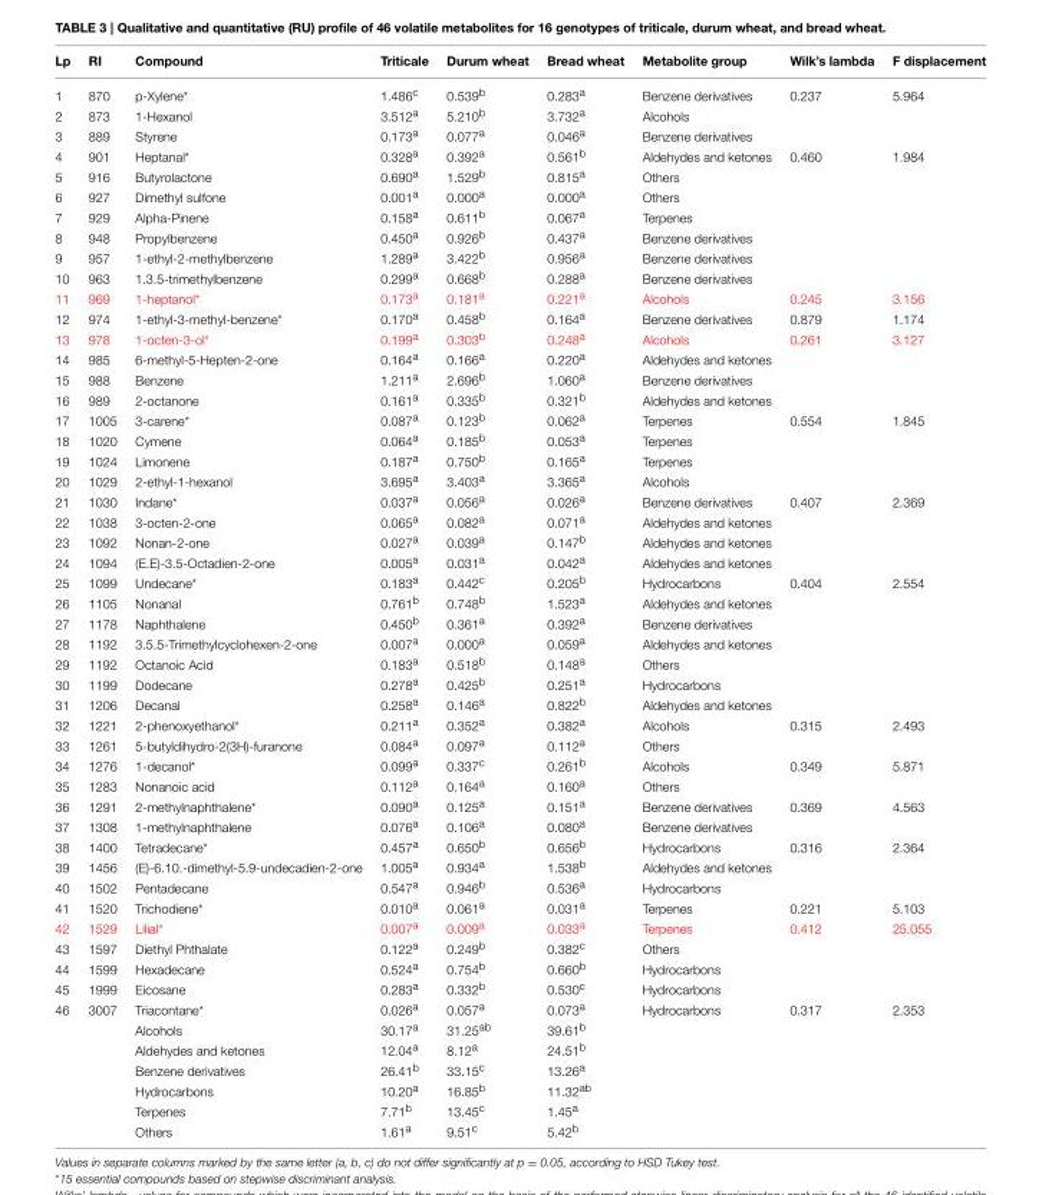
<table><thead><tr><td>Lp</td><td>RI</td><td>Compound</td><td>Triticale</td><td>Durum wheat</td><td>Bread wheat</td><td>Metabolite group</td><td>Wilk’s lambda</td><td>F displacement</td></tr></thead><tbody><tr><td>1</td><td>870</td><td>p-Xylene*</td><td>1.486<sup>c</sup></td><td>0.539<sup>b</sup></td><td>0.283<sup>a</sup></td><td>Benzene derivatives</td><td>0.237</td><td>5.964</td></tr><tr><td>2</td><td>873</td><td>1-Hexanol</td><td>3.512<sup>a</sup></td><td>5.210<sup>b</sup></td><td>3.732<sup>a</sup></td><td>Alcohols</td><td></td><td></td></tr><tr><td>3</td><td>889</td><td>Styrene</td><td>0.173<sup>a</sup></td><td>0.077<sup>a</sup></td><td>0.046<sup>a</sup></td><td>Benzene derivatives</td><td></td><td></td></tr><tr><td>4</td><td>901</td><td>Heptanal*</td><td>0.328<sup>a</sup></td><td>0.392<sup>a</sup></td><td>0.561<sup>b</sup></td><td>Aldehydes and ketones</td><td>0.460</td><td>1.984</td></tr><tr><td>5</td><td>916</td><td>Butyrolactone</td><td>0.690<sup>a</sup></td><td>1.529<sup>b</sup></td><td>0.815<sup>a</sup></td><td>Others</td><td></td><td></td></tr><tr><td>6</td><td>927</td><td>Dimethyl sulfone</td><td>0.001<sup>a</sup></td><td>0.000<sup>a</sup></td><td>0.000<sup>a</sup></td><td>Others</td><td></td><td></td></tr><tr><td>7</td><td>929</td><td>Alpha-Pinene</td><td>0.158<sup>a</sup></td><td>0.611<sup>b</sup></td><td>0.067<sup>a</sup></td><td>Terpenes</td><td></td><td></td></tr><tr><td>8</td><td>948</td><td>Propylbenzene</td><td>0.450<sup>a</sup></td><td>0.926<sup>b</sup></td><td>0.437<sup>a</sup></td><td>Benzene derivatives</td><td></td><td></td></tr><tr><td>9</td><td>957</td><td>1-ethyl-2-methylbenzene</td><td>1.289<sup>a</sup></td><td>3.422<sup>b</sup></td><td>0.956<sup>a</sup></td><td>Benzene derivatives</td><td></td><td></td></tr><tr><td>10</td><td>963</td><td>1.3.5-trimethylbenzene</td><td>0.299<sup>a</sup></td><td>0.668<sup>b</sup></td><td>0.288<sup>a</sup></td><td>Benzene derivatives</td><td></td><td></td></tr><tr><td>11</td><td>969</td><td>1-heptanol*</td><td>0.173<sup>a</sup></td><td>0.181<sup>a</sup></td><td>0.221<sup>a</sup></td><td>Alcohols</td><td>0.245</td><td>3.156</td></tr><tr><td>12</td><td>974</td><td>1-ethyl-3-methyl-benzene*</td><td>0.170<sup>a</sup></td><td>0.458<sup>b</sup></td><td>0.164<sup>a</sup></td><td>Benzene derivatives</td><td>0.879</td><td>1.174</td></tr><tr><td>13</td><td>978</td><td>1-octen-3-ol*</td><td>0.199<sup>a</sup></td><td>0.303<sup>b</sup></td><td>0.248<sup>a</sup></td><td>Alcohols</td><td>0.261</td><td>3.127</td></tr><tr><td>14</td><td>985</td><td>6-methyl-5-Hepten-2-one</td><td>0.164<sup>a</sup></td><td>0.166<sup>a</sup></td><td>0.220<sup>a</sup></td><td>Aldehydes and ketones</td><td></td><td></td></tr><tr><td>15</td><td>988</td><td>Benzene</td><td>1.211<sup>a</sup></td><td>2.696<sup>b</sup></td><td>1.060<sup>a</sup></td><td>Benzene derivatives</td><td></td><td></td></tr><tr><td>16</td><td>989</td><td>2-octanone</td><td>0.161<sup>a</sup></td><td>0.335<sup>b</sup></td><td>0.321<sup>b</sup></td><td>Aldehydes and ketones</td><td></td><td></td></tr><tr><td>17</td><td>1005</td><td>3-carene*</td><td>0.087<sup>a</sup></td><td>0.123<sup>b</sup></td><td>0.062<sup>a</sup></td><td>Terpenes</td><td>0.554</td><td>1.845</td></tr><tr><td>18</td><td>1020</td><td>Cymene</td><td>0.064<sup>a</sup></td><td>0.185<sup>b</sup></td><td>0.053<sup>a</sup></td><td>Terpenes</td><td></td><td></td></tr><tr><td>19</td><td>1024</td><td>Limonene</td><td>0.187<sup>a</sup></td><td>0.750<sup>b</sup></td><td>0.165<sup>a</sup></td><td>Terpenes</td><td></td><td></td></tr><tr><td>20</td><td>1029</td><td>2-ethyl-1-hexanol</td><td>3.695<sup>a</sup></td><td>3.403<sup>a</sup></td><td>3.365<sup>a</sup></td><td>Alcohols</td><td></td><td></td></tr><tr><td>21</td><td>1030</td><td>Indane*</td><td>0.037<sup>a</sup></td><td>0.056<sup>a</sup></td><td>0.026<sup>a</sup></td><td>Benzene derivatives</td><td>0.407</td><td>2.369</td></tr><tr><td>22</td><td>1038</td><td>3-octen-2-one</td><td>0.065<sup>a</sup></td><td>0.082<sup>a</sup></td><td>0.071<sup>a</sup></td><td>Aldehydes and ketones</td><td></td><td></td></tr><tr><td>23</td><td>1092</td><td>Nonan-2-one</td><td>0.027<sup>a</sup></td><td>0.039<sup>a</sup></td><td>0.147<sup>b</sup></td><td>Aldehydes and ketones</td><td></td><td></td></tr><tr><td>24</td><td>1094</td><td>(E.E)-3.5-Octadien-2-one</td><td>0.005<sup>a</sup></td><td>0.031<sup>a</sup></td><td>0.042<sup>a</sup></td><td>Aldehydes and ketones</td><td></td><td></td></tr><tr><td>25</td><td>1099</td><td>Undecane*</td><td>0.183<sup>a</sup></td><td>0.442<sup>c</sup></td><td>0.205<sup>b</sup></td><td>Hydrocarbons</td><td>0.404</td><td>2.554</td></tr><tr><td>26</td><td>1105</td><td>Nonanal</td><td>0.761<sup>b</sup></td><td>0.748<sup>b</sup></td><td>1.523<sup>a</sup></td><td>Aldehydes and ketones</td><td></td><td></td></tr><tr><td>27</td><td>1178</td><td>Naphthalene</td><td>0.450<sup>b</sup></td><td>0.361<sup>a</sup></td><td>0.392<sup>a</sup></td><td>Benzene derivatives</td><td></td><td></td></tr><tr><td>28</td><td>1192</td><td>3.5.5-Trimethylcyclohexen-2-one</td><td>0.007<sup>a</sup></td><td>0.000<sup>a</sup></td><td>0.059<sup>a</sup></td><td>Aldehydes and ketones</td><td></td><td></td></tr><tr><td>29</td><td>1192</td><td>Octanoic Acid</td><td>0.183<sup>a</sup></td><td>0.518<sup>b</sup></td><td>0.148<sup>a</sup></td><td>Others</td><td></td><td></td></tr><tr><td>30</td><td>1199</td><td>Dodecane</td><td>0.278<sup>a</sup></td><td>0.425<sup>b</sup></td><td>0.251<sup>a</sup></td><td>Hydrocarbons</td><td></td><td></td></tr><tr><td>31</td><td>1206</td><td>Decanal</td><td>0.258<sup>a</sup></td><td>0.146<sup>a</sup></td><td>0.822<sup>b</sup></td><td>Aldehydes and ketones</td><td></td><td></td></tr><tr><td>32</td><td>1221</td><td>2-phenoxyethanol*</td><td>0.211<sup>a</sup></td><td>0.352<sup>a</sup></td><td>0.382<sup>a</sup></td><td>Alcohols</td><td>0.315</td><td>2.493</td></tr><tr><td>33</td><td>1261</td><td>5-butyldihydro-2(3H)-furanone</td><td>0.084<sup>a</sup></td><td>0.097<sup>a</sup></td><td>0.112<sup>a</sup></td><td>Others</td><td></td><td></td></tr><tr><td>34</td><td>1276</td><td>1-decanol*</td><td>0.099<sup>a</sup></td><td>0.337<sup>c</sup></td><td>0.261<sup>b</sup></td><td>Alcohols</td><td>0.349</td><td>5.871</td></tr><tr><td>35</td><td>1283</td><td>Nonanoic acid</td><td>0.112<sup>a</sup></td><td>0.164<sup>a</sup></td><td>0.160<sup>a</sup></td><td>Others</td><td></td><td></td></tr><tr><td>36</td><td>1291</td><td>2-methylnaphthalene*</td><td>0.090<sup>a</sup></td><td>0.125<sup>a</sup></td><td>0.151<sup>a</sup></td><td>Benzene derivatives</td><td>0.369</td><td>4.563</td></tr><tr><td>37</td><td>1308</td><td>1-methylnaphthalene</td><td>0.076<sup>a</sup></td><td>0.106<sup>a</sup></td><td>0.080<sup>a</sup></td><td>Benzene derivatives</td><td></td><td></td></tr><tr><td>38</td><td>1400</td><td>Tetradecane*</td><td>0.457<sup>a</sup></td><td>0.650<sup>b</sup></td><td>0.656<sup>b</sup></td><td>Hydrocarbons</td><td>0.316</td><td>2.364</td></tr><tr><td>39</td><td>1456</td><td>(E)-6.10.-dimethyl-5.9-undecadien-2-one</td><td>1.005<sup>a</sup></td><td>0.934<sup>a</sup></td><td>1.538<sup>b</sup></td><td>Aldehydes and ketones</td><td></td><td></td></tr><tr><td>40</td><td>1502</td><td>Pentadecane</td><td>0.547<sup>a</sup></td><td>0.946<sup>b</sup></td><td>0.536<sup>a</sup></td><td>Hydrocarbons</td><td></td><td></td></tr><tr><td>41</td><td>1520</td><td>Trichodiene*</td><td>0.010<sup>a</sup></td><td>0.061<sup>a</sup></td><td>0.031<sup>a</sup></td><td>Terpenes</td><td>0.221</td><td>5.103</td></tr><tr><td>42</td><td>1529</td><td>Lilial*</td><td>0.007<sup>a</sup></td><td>0.009<sup>a</sup></td><td>0.033<sup>a</sup></td><td>Terpenes</td><td>0.412</td><td>25.055</td></tr><tr><td>43</td><td>1597</td><td>Diethyl Phthalate</td><td>0.122<sup>a</sup></td><td>0.249<sup>b</sup></td><td>0.382<sup>c</sup></td><td>Others</td><td></td><td></td></tr><tr><td>44</td><td>1599</td><td>Hexadecane</td><td>0.524<sup>a</sup></td><td>0.754<sup>b</sup></td><td>0.660<sup>b</sup></td><td>Hydrocarbons</td><td></td><td></td></tr><tr><td>45</td><td>1999</td><td>Eicosane</td><td>0.283<sup>a</sup></td><td>0.332<sup>b</sup></td><td>0.530<sup>c</sup></td><td>Hydrocarbons</td><td></td><td></td></tr><tr><td rowspan="7">46</td><td>3007</td><td>Triacontane*</td><td>0.026<sup>a</sup></td><td>0.057<sup>a</sup></td><td>0.073<sup>a</sup></td><td>Hydrocarbons</td><td>0.317</td><td>2.353</td></tr><tr><td></td><td>Alcohols</td><td>30.17<sup>a</sup></td><td>31.25<sup>ab</sup></td><td>39.61<sup>b</sup></td><td></td><td></td><td></td></tr><tr><td></td><td>Aldehydes and ketones</td><td>12.04<sup>a</sup></td><td>8.12<sup>a</sup></td><td>24.51<sup>b</sup></td><td></td><td></td><td></td></tr><tr><td></td><td>Benzene derivatives</td><td>26.41<sup>b</sup></td><td>33.15<sup>c</sup></td><td>13.26<sup>a</sup></td><td></td><td></td><td></td></tr><tr><td></td><td>Hydrocarbons</td><td>10.20<sup>a</sup></td><td>16.85<sup>b</sup></td><td>11.32<sup>ab</sup></td><td></td><td></td><td></td></tr><tr><td></td><td>Terpenes</td><td>7.71<sup>b</sup></td><td>13.45<sup>c</sup></td><td>1.45<sup>a</sup></td><td></td><td></td><td></td></tr><tr><td></td><td>Others</td><td>1.61<sup>a</sup></td><td>9.51<sup>c</sup></td><td>5.42<sup>b</sup></td><td></td><td></td><td></td></tr></tbody></table>